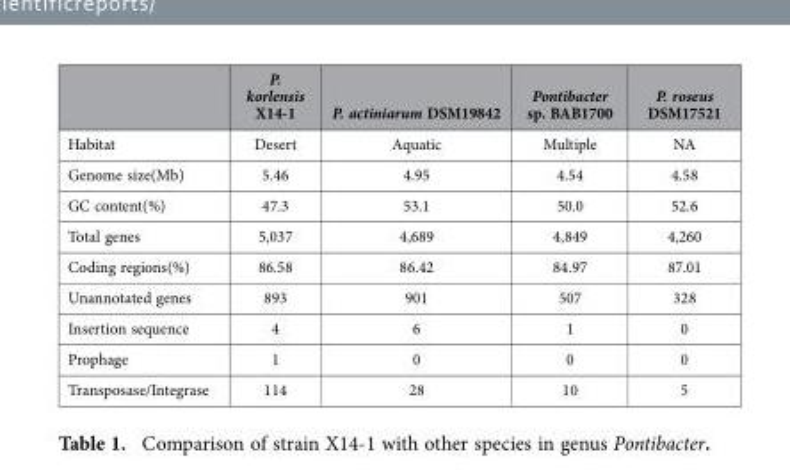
<table><thead><tr><td></td><td>P. korlensis X14-1</td><td>P. actiniarum DSM19842</td><td>Pontibacter sp. BAB1700</td><td>P. roseus DSM17521</td></tr></thead><tbody><tr><td>Habitat</td><td>Desert</td><td>Aquatic</td><td>Multiple</td><td>NA</td></tr><tr><td>Genome size(Mb)</td><td>5.46</td><td>4.95</td><td>4.54</td><td>4.58</td></tr><tr><td>GC content(%)</td><td>47.3</td><td>53.1</td><td>50.0</td><td>52.6</td></tr><tr><td>Total genes</td><td>5,037</td><td>4,689</td><td>4,849</td><td>4,260</td></tr><tr><td>Coding regions(%)</td><td>86.58</td><td>86.42</td><td>84.97</td><td>87.01</td></tr><tr><td>Unannotated genes</td><td>893</td><td>901</td><td>507</td><td>328</td></tr><tr><td>Insertion sequence</td><td>4</td><td>6</td><td>1</td><td>0</td></tr><tr><td>Prophage</td><td>1</td><td>0</td><td>0</td><td>0</td></tr><tr><td>Transposase/Integrase</td><td>114</td><td>28</td><td>10</td><td>5</td></tr></tbody></table>